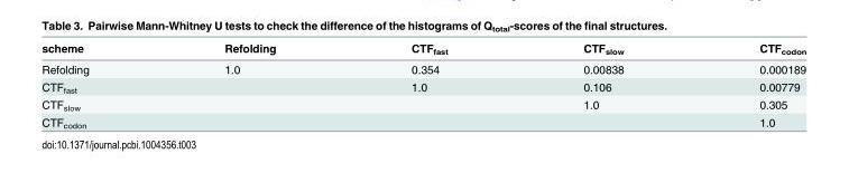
<table><thead><tr><td>scheme</td><td>Refolding</td><td>CTF<sub>fast</sub></td><td>CTF<sub>slow</sub></td><td>CTF<sub>codon</sub></td></tr></thead><tbody><tr><td>Refolding</td><td>1.0</td><td>0.354</td><td>0.00838</td><td>0.000189</td></tr><tr><td>CTF<sub>fast</sub></td><td></td><td>1.0</td><td>0.106</td><td>0.00779</td></tr><tr><td>CTF<sub>slow</sub></td><td></td><td></td><td>1.0</td><td>0.305</td></tr><tr><td>CTF<sub>codon</sub></td><td></td><td></td><td></td><td>1.0</td></tr></tbody></table>